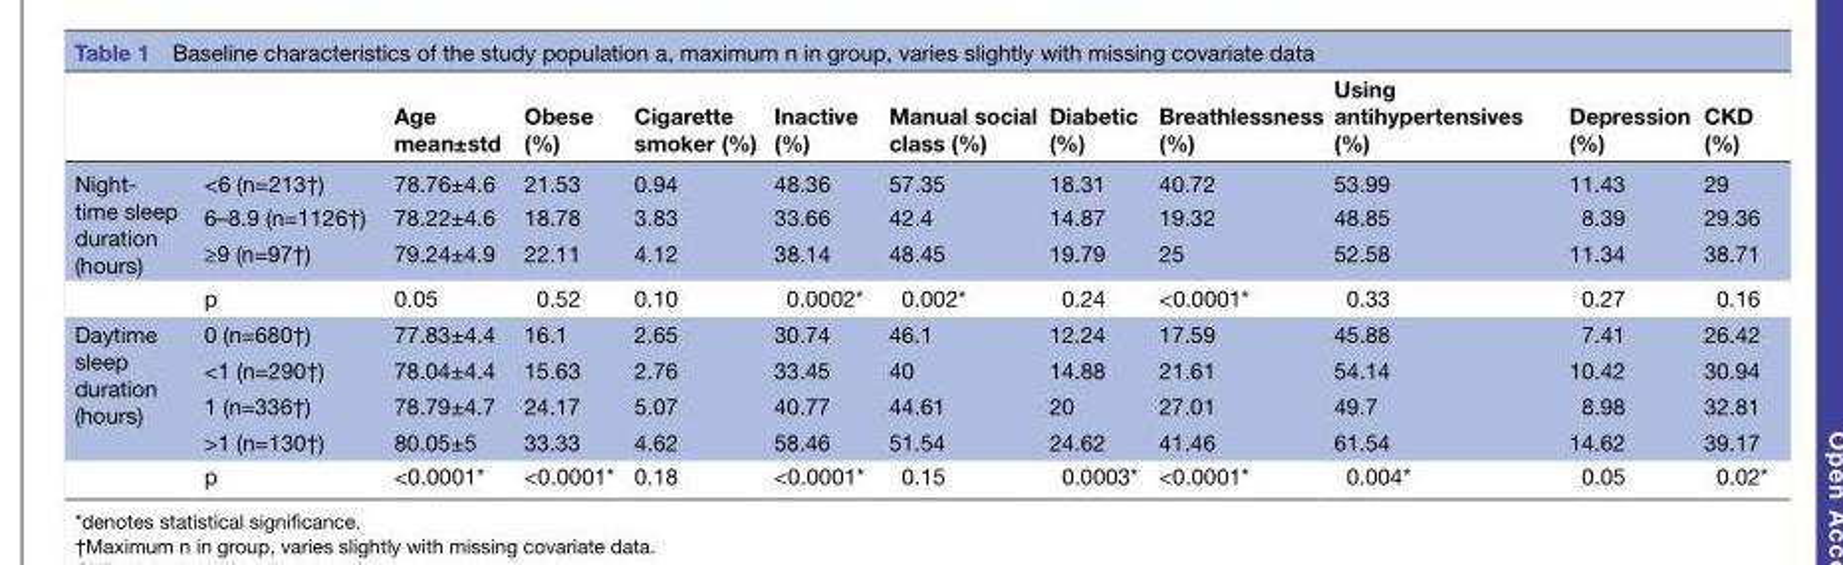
<table><thead><tr><td></td><td></td><td>Age mean±std</td><td>Obese (%)</td><td>Cigarette smoker (%)</td><td>Inactive (%)</td><td>Manual social class (%)</td><td>Diabetic (%)</td><td>Breathlessness (%)</td><td>Using antihypertensives (%)</td><td>Depression (%)</td><td>CKD (%)</td></tr></thead><tbody><tr><td rowspan="4">Night- time sleep duration (hours)</td><td>&lt;6 (n=213†)</td><td>78.76±4.6</td><td>21.53</td><td>0.94</td><td>48.36</td><td>57.35</td><td>18.31</td><td>40.72</td><td>53.99</td><td>11.43</td><td>29</td></tr><tr><td>6–8.9 (n=1126†)</td><td>78.22±4.6</td><td>18.78</td><td>3.83</td><td>33.66</td><td>42.4</td><td>14.87</td><td>19.32</td><td>48.85</td><td>8.39</td><td>29.36</td></tr><tr><td>≥9 (n=97†)</td><td>79.24±4.9</td><td>22.11</td><td>4.12</td><td>38.14</td><td>48.45</td><td>19.79</td><td>25</td><td>52.58</td><td>11.34</td><td>38.71</td></tr><tr><td>p</td><td>0.05</td><td>0.52</td><td>0.10</td><td>0.0002*</td><td>0.002*</td><td>0.24</td><td>&lt;0.0001*</td><td>0.33</td><td>0.27</td><td>0.16</td></tr><tr><td rowspan="5">Daytime sleep duration (hours)</td><td>0 (n=680†)</td><td>77.83±4.4</td><td>16.1</td><td>2.65</td><td>30.74</td><td>46.1</td><td>12.24</td><td>17.59</td><td>45.88</td><td>7.41</td><td>26.42</td></tr><tr><td>&lt;1 (n=290†)</td><td>78.04±4.4</td><td>15.63</td><td>2.76</td><td>33.45</td><td>40</td><td>14.88</td><td>21.61</td><td>54.14</td><td>10.42</td><td>30.94</td></tr><tr><td>1 (n=336†)</td><td>78.79±4.7</td><td>24.17</td><td>5.07</td><td>40.77</td><td>44.61</td><td>20</td><td>27.01</td><td>49.7</td><td>8.98</td><td>32.81</td></tr><tr><td>&gt;1 (n=130†)</td><td>80.05±5</td><td>33.33</td><td>4.62</td><td>58.46</td><td>51.54</td><td>24.62</td><td>41.46</td><td>61.54</td><td>14.62</td><td>39.17</td></tr><tr><td>p</td><td>&lt;0.0001*</td><td>&lt;0.0001*</td><td>0.18</td><td>&lt;0.0001*</td><td>0.15</td><td>0.0003*</td><td>&lt;0.0001*</td><td>0.004*</td><td>0.05</td><td>0.02*</td></tr></tbody></table>